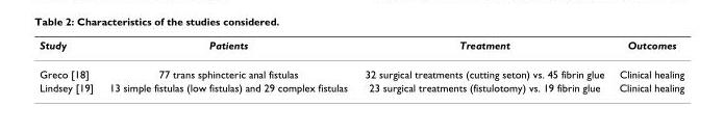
<table><thead><tr><td>Study</td><td>Patients</td><td>Treatment</td><td>Outcomes</td></tr></thead><tbody><tr><td>Greco [18]</td><td>77 trans sphincteric anal fistulas</td><td>32 surgical treatments (cutting seton) vs. 45 fibrin glue</td><td>Clinical healing</td></tr><tr><td>Lindsey [19]</td><td>13 simple fistulas (low fistulas) and 29 complex fistulas</td><td>23 surgical treatments (fistulotomy) vs. 19 fibrin glue</td><td>Clinical healing</td></tr></tbody></table>